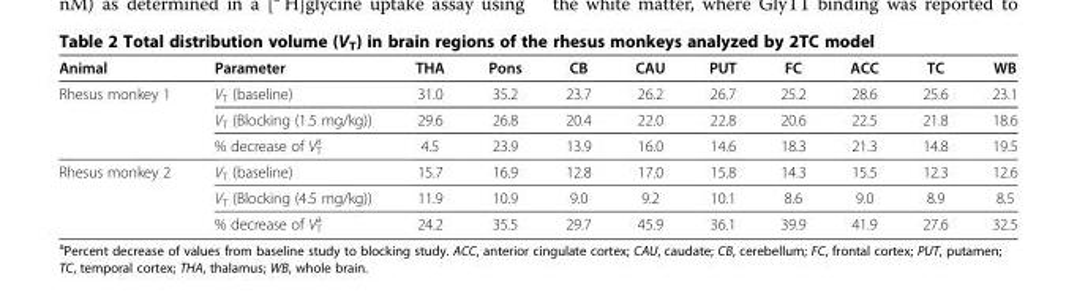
<table><thead><tr><td>Animal</td><td>Parameter</td><td>THA</td><td>Pons</td><td>CB</td><td>CAU</td><td>PUT</td><td>FC</td><td>ACC</td><td>TC</td><td>WB</td></tr></thead><tbody><tr><td rowspan="3">Rhesus monkey 1</td><td>V<sub>T</sub> (baseline)</td><td>31.0</td><td>35.2</td><td>23.7</td><td>26.2</td><td>26.7</td><td>25.2</td><td>28.6</td><td>25.6</td><td>23.1</td></tr><tr><td>V<sub>T</sub> (Blocking (1.5 mg/kg))</td><td>29.6</td><td>26.8</td><td>20.4</td><td>22.0</td><td>22.8</td><td>20.6</td><td>22.5</td><td>21.8</td><td>18.6</td></tr><tr><td>% decrease of V<sub>T</sub> <sup>a</sup></td><td>4.5</td><td>23.9</td><td>13.9</td><td>16.0</td><td>14.6</td><td>18.3</td><td>21.3</td><td>14.8</td><td>19.5</td></tr><tr><td rowspan="3">Rhesus monkey 2</td><td>V<sub>T</sub> (baseline)</td><td>15.7</td><td>16.9</td><td>12.8</td><td>17.0</td><td>15.8</td><td>14.3</td><td>15.5</td><td>12.3</td><td>12.6</td></tr><tr><td>V<sub>T</sub> (Blocking (4.5 mg/kg))</td><td>11.9</td><td>10.9</td><td>9.0</td><td>9.2</td><td>10.1</td><td>8.6</td><td>9.0</td><td>8.9</td><td>8.5</td></tr><tr><td>% decrease of V<sub>T</sub> <sup>a</sup></td><td>24.2</td><td>35.5</td><td>29.7</td><td>45.9</td><td>36.1</td><td>39.9</td><td>41.9</td><td>27.6</td><td>32.5</td></tr></tbody></table>